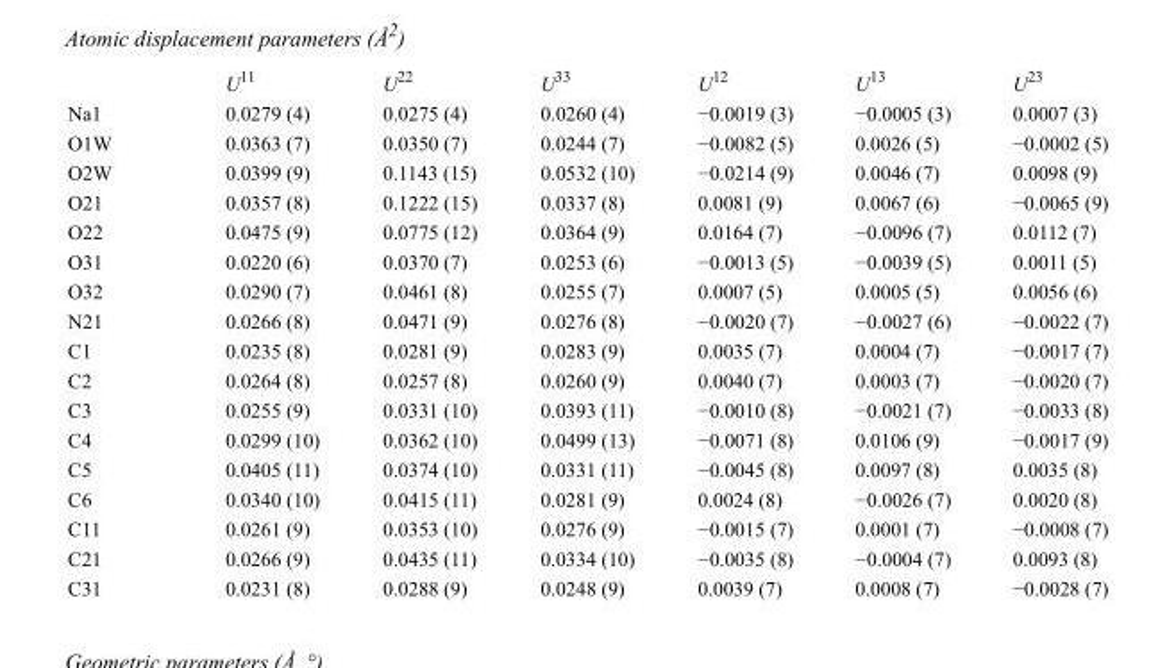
<table><thead><tr><td></td><td>U<sup>11</sup></td><td>U<sup>22</sup></td><td>U<sup>33</sup></td><td>U<sup>12</sup></td><td>U<sup>13</sup></td><td>U<sup>23</sup></td></tr></thead><tbody><tr><td>Na1</td><td>0.0279 (4)</td><td>0.0275 (4)</td><td>0.0260 (4)</td><td>−0.0019 (3)</td><td>−0.0005 (3)</td><td>0.0007 (3)</td></tr><tr><td>O1W</td><td>0.0363 (7)</td><td>0.0350 (7)</td><td>0.0244 (7)</td><td>−0.0082 (5)</td><td>0.0026 (5)</td><td>−0.0002 (5)</td></tr><tr><td>O2W</td><td>0.0399 (9)</td><td>0.1143 (15)</td><td>0.0532 (10)</td><td>−0.0214 (9)</td><td>0.0046 (7)</td><td>0.0098 (9)</td></tr><tr><td>O21</td><td>0.0357 (8)</td><td>0.1222 (15)</td><td>0.0337 (8)</td><td>0.0081 (9)</td><td>0.0067 (6)</td><td>−0.0065 (9)</td></tr><tr><td>O22</td><td>0.0475 (9)</td><td>0.0775 (12)</td><td>0.0364 (9)</td><td>0.0164 (7)</td><td>−0.0096 (7)</td><td>0.0112 (7)</td></tr><tr><td>O31</td><td>0.0220 (6)</td><td>0.0370 (7)</td><td>0.0253 (6)</td><td>−0.0013 (5)</td><td>−0.0039 (5)</td><td>0.0011 (5)</td></tr><tr><td>O32</td><td>0.0290 (7)</td><td>0.0461 (8)</td><td>0.0255 (7)</td><td>0.0007 (5)</td><td>0.0005 (5)</td><td>0.0056 (6)</td></tr><tr><td>N21</td><td>0.0266 (8)</td><td>0.0471 (9)</td><td>0.0276 (8)</td><td>−0.0020 (7)</td><td>−0.0027 (6)</td><td>−0.0022 (7)</td></tr><tr><td>C1</td><td>0.0235 (8)</td><td>0.0281 (9)</td><td>0.0283 (9)</td><td>0.0035 (7)</td><td>0.0004 (7)</td><td>−0.0017 (7)</td></tr><tr><td>C2</td><td>0.0264 (8)</td><td>0.0257 (8)</td><td>0.0260 (9)</td><td>0.0040 (7)</td><td>0.0003 (7)</td><td>−0.0020 (7)</td></tr><tr><td>C3</td><td>0.0255 (9)</td><td>0.0331 (10)</td><td>0.0393 (11)</td><td>−0.0010 (8)</td><td>−0.0021 (7)</td><td>−0.0033 (8)</td></tr><tr><td>C4</td><td>0.0299 (10)</td><td>0.0362 (10)</td><td>0.0499 (13)</td><td>−0.0071 (8)</td><td>0.0106 (9)</td><td>−0.0017 (9)</td></tr><tr><td>C5</td><td>0.0405 (11)</td><td>0.0374 (10)</td><td>0.0331 (11)</td><td>−0.0045 (8)</td><td>0.0097 (8)</td><td>0.0035 (8)</td></tr><tr><td>C6</td><td>0.0340 (10)</td><td>0.0415 (11)</td><td>0.0281 (9)</td><td>0.0024 (8)</td><td>−0.0026 (7)</td><td>0.0020 (8)</td></tr><tr><td>C11</td><td>0.0261 (9)</td><td>0.0353 (10)</td><td>0.0276 (9)</td><td>−0.0015 (7)</td><td>0.0001 (7)</td><td>−0.0008 (7)</td></tr><tr><td>C21</td><td>0.0266 (9)</td><td>0.0435 (11)</td><td>0.0334 (10)</td><td>−0.0035 (8)</td><td>−0.0004 (7)</td><td>0.0093 (8)</td></tr><tr><td>C31</td><td>0.0231 (8)</td><td>0.0288 (9)</td><td>0.0248 (9)</td><td>0.0039 (7)</td><td>0.0008 (7)</td><td>−0.0028 (7)</td></tr></tbody></table>